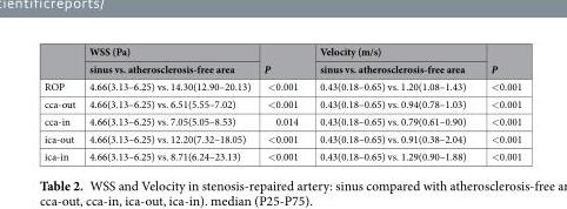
<table><thead><tr><td rowspan="2"></td><td rowspan="2">WSS (Pa) sinus vs. atherosclerosis-free area</td><td rowspan="2">P</td><td rowspan="2">Velocity (m/s) sinus vs. atherosclerosis-free area</td><td rowspan="2">P</td></tr><tr></tr></thead><tbody><tr><td>ROP</td><td>4.66(3.13–6.25) vs. 14.30(12.90–20.13)</td><td>&lt;0.001</td><td>0.43(0.18–0.65) vs. 1.20(1.08–1.43)</td><td>&lt;0.001</td></tr><tr><td>cca-out</td><td>4.66(3.13–6.25) vs. 6.51(5.55–7.02)</td><td>&lt;0.001</td><td>0.43(0.18–0.65) vs. 0.94(0.78–1.03)</td><td>&lt;0.001</td></tr><tr><td>cca-in</td><td>4.66(3.13–6.25) vs. 7.05(5.05–8.53)</td><td>0.014</td><td>0.43(0.18–0.65) vs. 0.79(0.61–0.90)</td><td>&lt;0.001</td></tr><tr><td>ica-out</td><td>4.66(3.13–6.25) vs. 12.20(7.32–18.05)</td><td>&lt;0.001</td><td>0.43(0.18–0.65) vs. 0.91(0.38–2.04)</td><td>&lt;0.001</td></tr><tr><td>ica-in</td><td>4.66(3.13–6.25) vs. 8.71(6.24–23.13)</td><td>&lt;0.001</td><td>0.43(0.18–0.65) vs. 1.29(0.90–1.88)</td><td>&lt;0.001</td></tr></tbody></table>